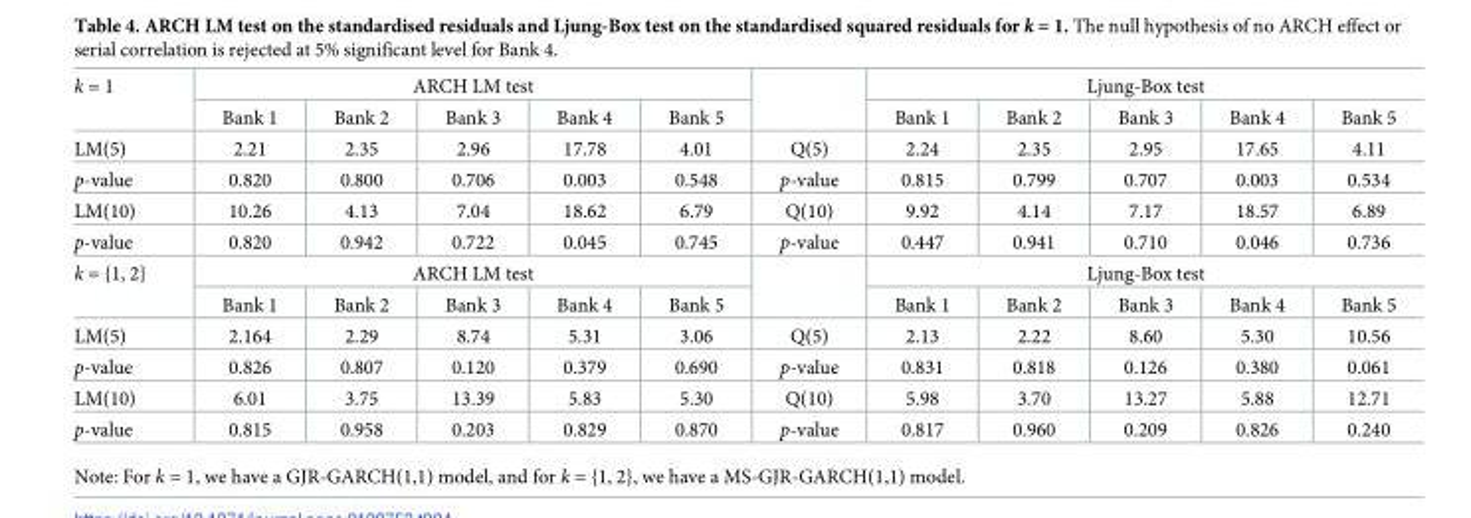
<table><tbody><tr><td rowspan="2">k = 1</td><td colspan="5">ARCH LM test</td><td rowspan="2"></td><td colspan="5">Ljung-Box test</td></tr><tr><td>Bank 1</td><td>Bank 2</td><td>Bank 3</td><td>Bank 4</td><td>Bank 5</td><td>Bank 1</td><td>Bank 2</td><td>Bank 3</td><td>Bank 4</td><td>Bank 5</td></tr><tr><td>LM(5)</td><td>2.21</td><td>2.35</td><td>2.96</td><td>17.78</td><td>4.01</td><td>Q(5)</td><td>2.24</td><td>2.35</td><td>2.95</td><td>17.65</td><td>4.11</td></tr><tr><td>p-value</td><td>0.820</td><td>0.800</td><td>0.706</td><td>0.003</td><td>0.548</td><td>p-value</td><td>0.815</td><td>0.799</td><td>0.707</td><td>0.003</td><td>0.534</td></tr><tr><td>LM(10)</td><td>10.26</td><td>4.13</td><td>7.04</td><td>18.62</td><td>6.79</td><td>Q(10)</td><td>9.92</td><td>4.14</td><td>7.17</td><td>18.57</td><td>6.89</td></tr><tr><td>p-value</td><td>0.820</td><td>0.942</td><td>0.722</td><td>0.045</td><td>0.745</td><td>p-value</td><td>0.447</td><td>0.941</td><td>0.710</td><td>0.046</td><td>0.736</td></tr><tr><td rowspan="2">k = {1, 2}</td><td colspan="5">ARCH LM test</td><td rowspan="2"></td><td colspan="5">Ljung-Box test</td></tr><tr><td>Bank 1</td><td>Bank 2</td><td>Bank 3</td><td>Bank 4</td><td>Bank 5</td><td>Bank 1</td><td>Bank 2</td><td>Bank 3</td><td>Bank 4</td><td>Bank 5</td></tr><tr><td>LM(5)</td><td>2.164</td><td>2.29</td><td>8.74</td><td>5.31</td><td>3.06</td><td>Q(5)</td><td>2.13</td><td>2.22</td><td>8.60</td><td>5.30</td><td>10.56</td></tr><tr><td>p-value</td><td>0.826</td><td>0.807</td><td>0.120</td><td>0.379</td><td>0.690</td><td>p-value</td><td>0.831</td><td>0.818</td><td>0.126</td><td>0.380</td><td>0.061</td></tr><tr><td>LM(10)</td><td>6.01</td><td>3.75</td><td>13.39</td><td>5.83</td><td>5.30</td><td>Q(10)</td><td>5.98</td><td>3.70</td><td>13.27</td><td>5.88</td><td>12.71</td></tr><tr><td>p-value</td><td>0.815</td><td>0.958</td><td>0.203</td><td>0.829</td><td>0.870</td><td>p-value</td><td>0.817</td><td>0.960</td><td>0.209</td><td>0.826</td><td>0.240</td></tr></tbody></table>